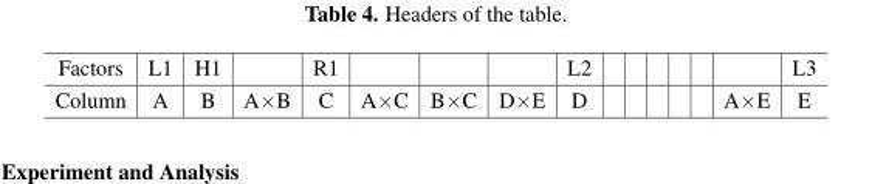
<table><tbody><tr><td>Factors</td><td>L1</td><td>H1</td><td></td><td>R1</td><td></td><td></td><td></td><td>L2</td><td></td><td>L3</td></tr><tr><td>Column</td><td>A</td><td>B</td><td>A×B</td><td>C</td><td>A×C</td><td>B×C</td><td>D×E</td><td>D</td><td>A×E</td><td>E</td></tr></tbody></table>